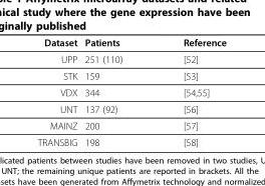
<table><thead><tr><td>Dataset</td><td>Patients</td><td>Reference</td></tr></thead><tbody><tr><td>UPP</td><td>251 (110)</td><td>[52]</td></tr><tr><td>STK</td><td>159</td><td>[53]</td></tr><tr><td>VDX</td><td>344</td><td>[54,55]</td></tr><tr><td>UNT</td><td>137 (92)</td><td>[56]</td></tr><tr><td>MAINZ</td><td>200</td><td>[57]</td></tr><tr><td>TRANSBIG</td><td>198</td><td>[58]</td></tr></tbody></table>